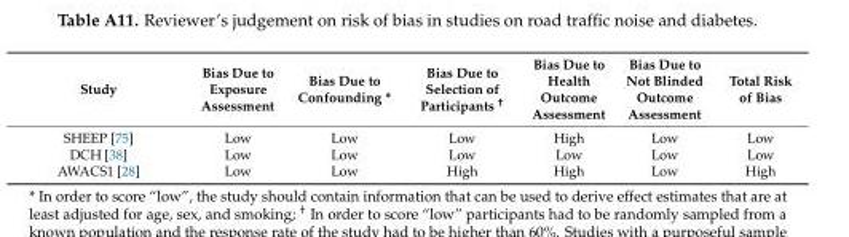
<table><thead><tr><td>Study</td><td>Bias Due to Exposure Assessment</td><td>Bias Due to Confounding *</td><td>Bias Due to Selection of Participants <sup>†</sup></td><td>Bias Due to Health Outcome Assessment</td><td>Bias Due to Not Blinded Outcome Assessment</td><td>Total Risk of Bias</td></tr></thead><tbody><tr><td>SHEEP [75]</td><td>Low</td><td>Low</td><td>Low</td><td>High</td><td>Low</td><td>Low</td></tr><tr><td>DCH [38]</td><td>Low</td><td>Low</td><td>Low</td><td>Low</td><td>Low</td><td>Low</td></tr><tr><td>AWACS1 [28]</td><td>Low</td><td>Low</td><td>High</td><td>High</td><td>Low</td><td>High</td></tr></tbody></table>